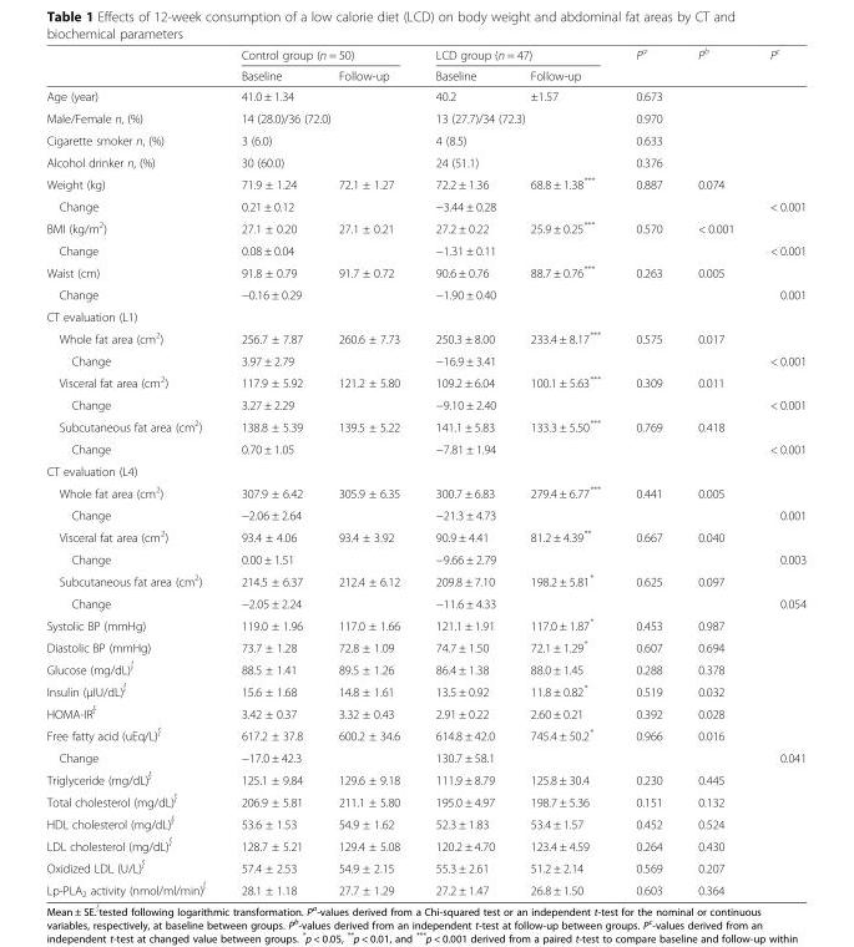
<table><thead><tr><td rowspan="2"></td><td colspan="2">Control group (n = 50)</td><td colspan="2">LCD group (n = 47)</td><td rowspan="2">P<sup>a</sup></td><td rowspan="2">P<sup>b</sup></td><td rowspan="2">P<sup>c</sup></td></tr><tr><td>Baseline</td><td>Follow-up</td><td>Baseline</td><td>Follow-up</td></tr></thead><tbody><tr><td>Age (year)</td><td colspan="2">41.0 ± 1.34</td><td>40.2</td><td>±1.57</td><td>0.673</td><td></td><td></td></tr><tr><td>Male/Female n, (%)</td><td colspan="2">14 (28.0)/36 (72.0)</td><td colspan="2">13 (27.7)/34 (72.3)</td><td>0.970</td><td></td><td></td></tr><tr><td>Cigarette smoker n, (%)</td><td colspan="2">3 (6.0)</td><td colspan="2">4 (8.5)</td><td>0.633</td><td></td><td></td></tr><tr><td>Alcohol drinker n, (%)</td><td colspan="2">30 (60.0)</td><td colspan="2">24 (51.1)</td><td>0.376</td><td></td><td></td></tr><tr><td>Weight (kg)</td><td>71.9 ± 1.24</td><td>72.1 ± 1.27</td><td>72.2 ± 1.36</td><td>68.8 ± 1.38***</td><td>0.887</td><td>0.074</td><td></td></tr><tr><td>Change</td><td colspan="2">0.21 ± 0.12</td><td colspan="2">−3.44 ± 0.28</td><td></td><td></td><td>&lt; 0.001</td></tr><tr><td>BMI (kg/m<sup>2</sup>)</td><td>27.1 ± 0.20</td><td>27.1 ± 0.21</td><td>27.2 ± 0.22</td><td>25.9 ± 0.25***</td><td>0.570</td><td>&lt; 0.001</td><td></td></tr><tr><td>Change</td><td colspan="2">0.08 ± 0.04</td><td colspan="2">−1.31 ± 0.11</td><td></td><td></td><td>&lt; 0.001</td></tr><tr><td>Waist (cm)</td><td>91.8 ± 0.79</td><td>91.7 ± 0.72</td><td>90.6 ± 0.76</td><td>88.7 ± 0.76***</td><td>0.263</td><td>0.005</td><td></td></tr><tr><td>Change</td><td colspan="2">−0.16 ± 0.29</td><td colspan="2">−1.90 ± 0.40</td><td></td><td></td><td>0.001</td></tr><tr><td colspan="8">CT evaluation (L1)</td></tr><tr><td>Whole fat area (cm<sup>2</sup>)</td><td>256.7 ± 7.87</td><td>260.6 ± 7.73</td><td>250.3 ± 8.00</td><td>233.4 ± 8.17***</td><td>0.575</td><td>0.017</td><td></td></tr><tr><td>Change</td><td colspan="2">3.97 ± 2.79</td><td colspan="2">−16.9 ± 3.41</td><td></td><td></td><td>&lt; 0.001</td></tr><tr><td>Visceral fat area (cm<sup>2</sup>)</td><td>117.9 ± 5.92</td><td>121.2 ± 5.80</td><td>109.2 ± 6.04</td><td>100.1 ± 5.63***</td><td>0.309</td><td>0.011</td><td></td></tr><tr><td>Change</td><td colspan="2">3.27 ± 2.29</td><td colspan="2">−9.10 ± 2.40</td><td></td><td></td><td>&lt; 0.001</td></tr><tr><td>Subcutaneous fat area (cm<sup>2</sup>)</td><td>138.8 ± 5.39</td><td>139.5 ± 5.22</td><td>141.1 ± 5.83</td><td>133.3 ± 5.50***</td><td>0.769</td><td>0.418</td><td></td></tr><tr><td>Change</td><td colspan="2">0.70 ± 1.05</td><td colspan="2">−7.81 ± 1.94</td><td></td><td></td><td>&lt; 0.001</td></tr><tr><td colspan="8">CT evaluation (L4)</td></tr><tr><td>Whole fat area (cm<sup>2</sup>)</td><td>307.9 ± 6.42</td><td>305.9 ± 6.35</td><td>300.7 ± 6.83</td><td>279.4 ± 6.77***</td><td>0.441</td><td>0.005</td><td></td></tr><tr><td>Change</td><td colspan="2">−2.06 ± 2.64</td><td colspan="2">−21.3 ± 4.73</td><td></td><td></td><td>0.001</td></tr><tr><td>Visceral fat area (cm<sup>2</sup>)</td><td>93.4 ± 4.06</td><td>93.4 ± 3.92</td><td>90.9 ± 4.41</td><td>81.2 ± 4.39**</td><td>0.667</td><td>0.040</td><td></td></tr><tr><td>Change</td><td colspan="2">0.00 ± 1.51</td><td colspan="2">−9.66 ± 2.79</td><td></td><td></td><td>0.003</td></tr><tr><td>Subcutaneous fat area (cm<sup>2</sup>)</td><td>214.5 ± 6.37</td><td>212.4 ± 6.12</td><td>209.8 ± 7.10</td><td>198.2 ± 5.81*</td><td>0.625</td><td>0.097</td><td></td></tr><tr><td>Change</td><td colspan="2">−2.05 ± 2.24</td><td colspan="2">−11.6 ± 4.33</td><td></td><td></td><td>0.054</td></tr><tr><td>Systolic BP (mmHg)</td><td>119.0 ± 1.96</td><td>117.0 ± 1.66</td><td>121.1 ± 1.91</td><td>117.0 ± 1.87*</td><td>0.453</td><td>0.987</td><td></td></tr><tr><td>Diastolic BP (mmHg)</td><td>73.7 ± 1.28</td><td>72.8 ± 1.09</td><td>74.7 ± 1.50</td><td>72.1 ± 1.29*</td><td>0.607</td><td>0.694</td><td></td></tr><tr><td>Glucose (mg/dL)<sup>∮</sup></td><td>88.5 ± 1.41</td><td>89.5 ± 1.26</td><td>86.4 ± 1.38</td><td>88.0 ± 1.45</td><td>0.288</td><td>0.378</td><td></td></tr><tr><td>Insulin (μIU/dL)<sup>∮</sup></td><td>15.6 ± 1.68</td><td>14.8 ± 1.61</td><td>13.5 ± 0.92</td><td>11.8 ± 0.82*</td><td>0.519</td><td>0.032</td><td></td></tr><tr><td>HOMA-IR<sup>∮</sup></td><td>3.42 ± 0.37</td><td>3.32 ± 0.43</td><td>2.91 ± 0.22</td><td>2.60 ± 0.21</td><td>0.392</td><td>0.028</td><td></td></tr><tr><td>Free fatty acid (uEq/L)<sup>∮</sup></td><td>617.2 ± 37.8</td><td>600.2 ± 34.6</td><td>614.8 ± 42.0</td><td>745.4 ± 50.2*</td><td>0.966</td><td>0.016</td><td></td></tr><tr><td>Change</td><td colspan="2">−17.0 ± 42.3</td><td colspan="2">130.7 ± 58.1</td><td></td><td></td><td>0.041</td></tr><tr><td>Triglyceride (mg/dL)<sup>∮</sup></td><td>125.1 ± 9.84</td><td>129.6 ± 9.18</td><td>111.9 ± 8.79</td><td>125.8 ± 30.4</td><td>0.230</td><td>0.445</td><td></td></tr><tr><td>Total cholesterol (mg/dL)<sup>∮</sup></td><td>206.9 ± 5.81</td><td>211.1 ± 5.80</td><td>195.0 ± 4.97</td><td>198.7 ± 5.36</td><td>0.151</td><td>0.132</td><td></td></tr><tr><td>HDL cholesterol (mg/dL)<sup>∮</sup></td><td>53.6 ± 1.53</td><td>54.9 ± 1.62</td><td>52.3 ± 1.83</td><td>53.4 ± 1.57</td><td>0.452</td><td>0.524</td><td></td></tr><tr><td>LDL cholesterol (mg/dL)<sup>∮</sup></td><td>128.7 ± 5.21</td><td>129.4 ± 5.08</td><td>120.2 ± 4.70</td><td>123.4 ± 4.59</td><td>0.264</td><td>0.430</td><td></td></tr><tr><td>Oxidized LDL (U/L)<sup>∮</sup></td><td>57.4 ± 2.53</td><td>54.9 ± 2.15</td><td>55.3 ± 2.61</td><td>51.2 ± 2.14</td><td>0.569</td><td>0.207</td><td></td></tr><tr><td>Lp-PLA<sub>2</sub> activity (nmol/ml/min)<sup>∮</sup></td><td>28.1 ± 1.18</td><td>27.7 ± 1.29</td><td>27.2 ± 1.47</td><td>26.8 ± 1.50</td><td>0.603</td><td>0.364</td><td></td></tr></tbody></table>